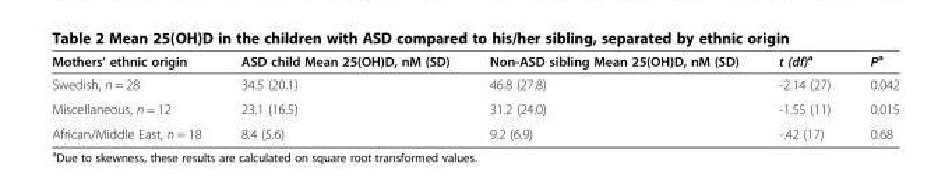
<table><thead><tr><td>Mothers’ ethnic origin</td><td>ASD child Mean 25(OH)D, nM (SD)</td><td>Non-ASD sibling Mean 25(OH)D, nM (SD)</td><td>t (df)<sup>a</sup></td><td>P<sup>a</sup></td></tr></thead><tbody><tr><td>Swedish, n = 28</td><td>34.5 (20.1)</td><td>46.8 (27.8)</td><td>-2.14 (27)</td><td>0.042</td></tr><tr><td>Miscellaneous, n = 12</td><td>23.1 (16.5)</td><td>31.2 (24.0)</td><td>-1.55 (11)</td><td>0.015</td></tr><tr><td>African/Middle East, n = 18</td><td>8.4 (5.6)</td><td>9.2 (6.9)</td><td>-.42 (17)</td><td>0.68</td></tr></tbody></table>